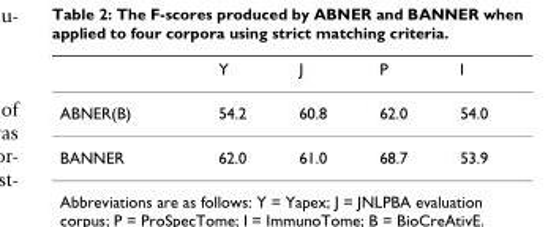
<table><thead><tr><td></td><td>Y</td><td>J</td><td>P</td><td>I</td></tr></thead><tbody><tr><td>ABNER(B)</td><td>54.2</td><td>60.8</td><td>62.0</td><td>54.0</td></tr><tr><td>BANNER</td><td>62.0</td><td>61.0</td><td>68.7</td><td>53.9</td></tr></tbody></table>